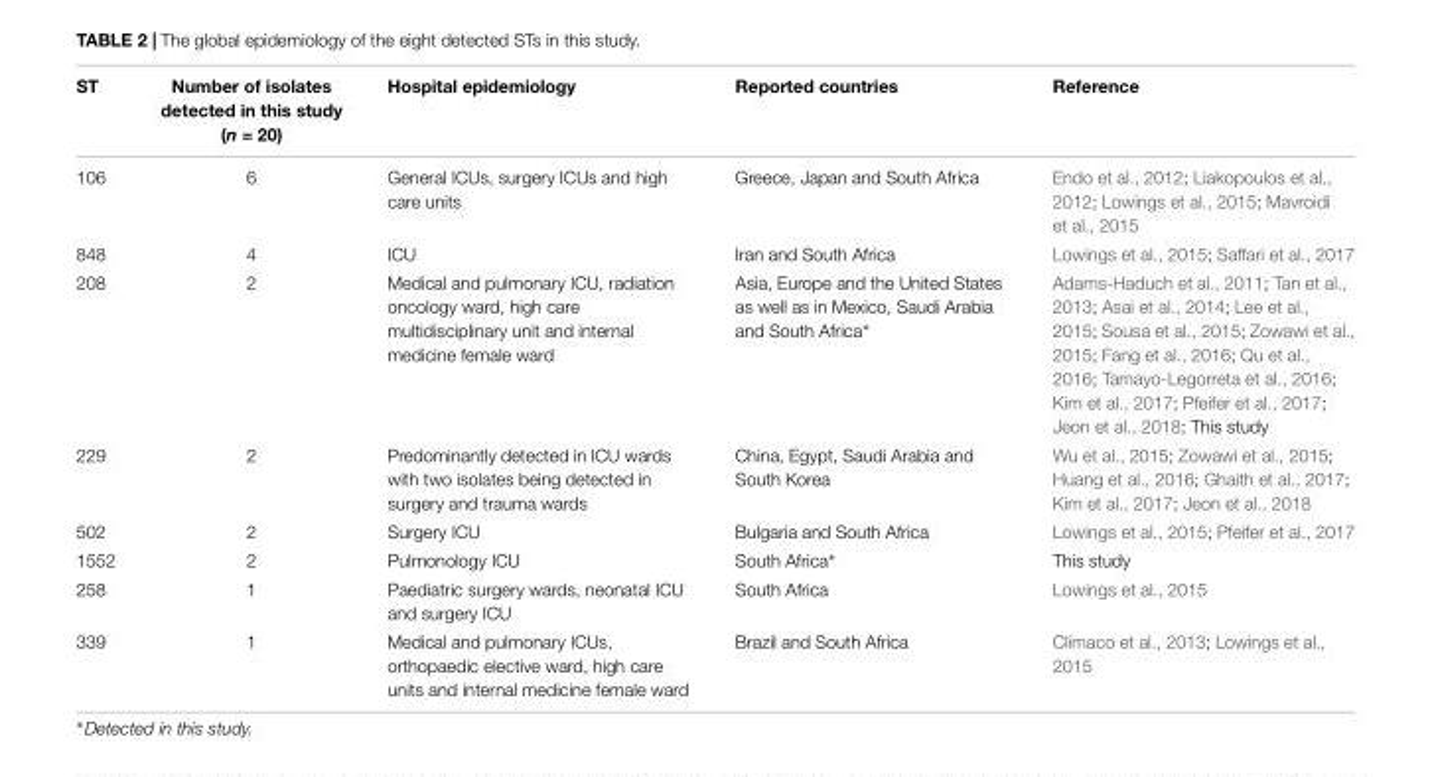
<table><thead><tr><td>ST</td><td>Number of isolates detected in this study (n = 20)</td><td>Hospital epidemiology</td><td>Reported countries</td><td>Reference</td></tr></thead><tbody><tr><td>106</td><td>6</td><td>General ICUs, surgery ICUs and high care units</td><td>Greece, Japan and South Africa</td><td>Endo et al., 2012; Liakopoulos et al., 2012; Lowings et al., 2015; Mavroidi et al., 2015</td></tr><tr><td>848</td><td>4</td><td>ICU</td><td>Iran and South Africa</td><td>Lowings et al., 2015; Saffari et al., 2017</td></tr><tr><td>208</td><td>2</td><td>Medical and pulmonary ICU, radiation oncology ward, high care multidisciplinary unit and internal medicine female ward</td><td>Asia, Europe and the United States as well as in Mexico, Saudi Arabia and South Africa∗</td><td>Adams-Haduch et al., 2011; Tan et al., 2013; Asai et al., 2014; Lee et al., 2015; Sousa et al., 2015; Zowawi et al., 2015; Fang et al., 2016; Qu et al., 2016; Tamayo-Legorreta et al., 2016; Kim et al., 2017; Pfeifer et al., 2017; Jeon et al., 2018; This study</td></tr><tr><td>229</td><td>2</td><td>Predominantly detected in ICU wards with two isolates being detected in surgery and trauma wards</td><td>China, Egypt, Saudi Arabia and South Korea</td><td>Wu et al., 2015; Zowawi et al., 2015; Huang et al., 2016; Ghaith et al., 2017; Kim et al., 2017; Jeon et al., 2018</td></tr><tr><td>502</td><td>2</td><td>Surgery ICU</td><td>Bulgaria and South Africa</td><td>Lowings et al., 2015; Pfeifer et al., 2017</td></tr><tr><td>1552</td><td>2</td><td>Pulmonology ICU</td><td>South Africa∗</td><td>This study</td></tr><tr><td>258</td><td>1</td><td>Paediatric surgery wards, neonatal ICU and surgery ICU</td><td>South Africa</td><td>Lowings et al., 2015</td></tr><tr><td>339</td><td>1</td><td>Medical and pulmonary ICUs, orthopaedic elective ward, high care units and internal medicine female ward</td><td>Brazil and South Africa</td><td>Clímaco et al., 2013; Lowings et al., 2015</td></tr></tbody></table>